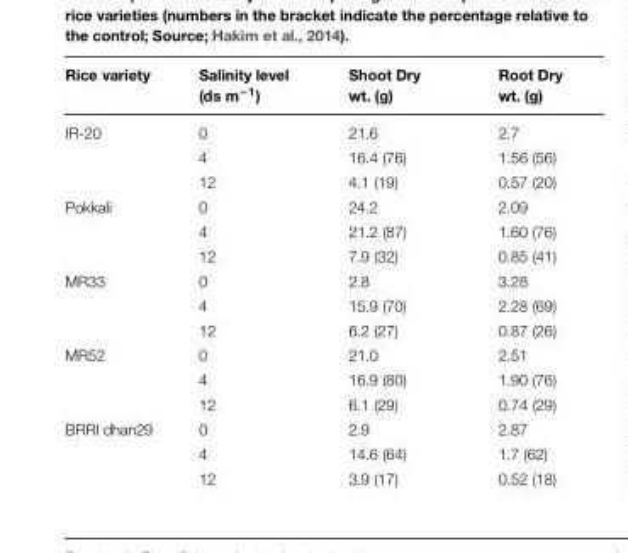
<table><thead><tr><td>Rice variety</td><td>Salinity level (ds m<sup>−1</sup>)</td><td>Shoot Dry wt. (g)</td><td>Root Dry wt. (g)</td></tr></thead><tbody><tr><td rowspan="3">IR-20</td><td>0</td><td>21.6</td><td>2.7</td></tr><tr><td>4</td><td>16.4 (76)</td><td>1.56 (56)</td></tr><tr><td>12</td><td>4.1 (19)</td><td>0.57 (20)</td></tr><tr><td rowspan="3">Pokkali</td><td>0</td><td>24.2</td><td>2.09</td></tr><tr><td>4</td><td>21.2 (87)</td><td>1.60 (76)</td></tr><tr><td>12</td><td>7.9 (32)</td><td>0.85 (41)</td></tr><tr><td rowspan="3">MR33</td><td>0</td><td>2.8</td><td>3.28</td></tr><tr><td>4</td><td>15.9 (70)</td><td>2.28 (69)</td></tr><tr><td>12</td><td>6.2 (27)</td><td>0.87 (26)</td></tr><tr><td rowspan="3">MR52</td><td>0</td><td>21.0</td><td>2.51</td></tr><tr><td>4</td><td>16.9 (80)</td><td>1.90 (76)</td></tr><tr><td>12</td><td>6.1 (29)</td><td>0.74 (29)</td></tr><tr><td rowspan="3">BRRI dhan29</td><td>0</td><td>2.9</td><td>2.87</td></tr><tr><td>4</td><td>14.6 (64)</td><td>1.7 (62)</td></tr><tr><td>12</td><td>3.9 (17)</td><td>0.52 (18)</td></tr></tbody></table>